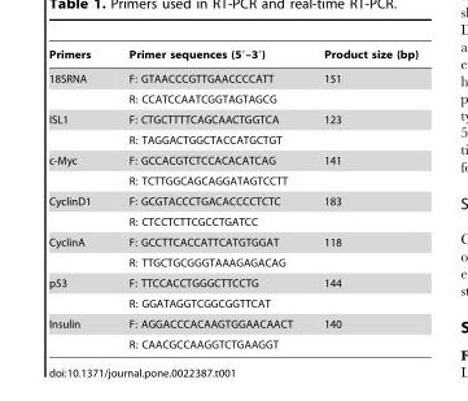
<table><thead><tr><td>Primers</td><td>Primer sequences (5′–3′)</td><td>Product size (bp)</td></tr></thead><tbody><tr><td rowspan="2">18SRNA</td><td>F: GTAACCCGTTGAACCCCATT</td><td>151</td></tr><tr><td>R: CCATCCAATCGGTAGTAGCG</td><td></td></tr><tr><td rowspan="2">ISL1</td><td>F: CTGCTTTTCAGCAACTGGTCA</td><td>123</td></tr><tr><td>R: TAGGACTGGCTACCATGCTGT</td><td></td></tr><tr><td rowspan="2">c-Myc</td><td>F: GCCACGTCTCCACACATCAG</td><td>141</td></tr><tr><td>R: TCTTGGCAGCAGGATAGTCCTT</td><td></td></tr><tr><td rowspan="2">CyclinD1</td><td>F: GCGTACCCTGACACCCCTCTC</td><td>183</td></tr><tr><td>R: CTCCTCTTCGCCTGATCC</td><td></td></tr><tr><td rowspan="2">CyclinA</td><td>F: GCCTTCACCATTCATGTGGAT</td><td>118</td></tr><tr><td>R: TTGCTGCGGGTAAAGAGACAG</td><td></td></tr><tr><td rowspan="2">p53</td><td>F: TTCCACCTGGGCTTCCTG</td><td>144</td></tr><tr><td>R: GGATAGGTCGGCGGTTCAT</td><td></td></tr><tr><td rowspan="2">Insulin</td><td>F: AGGACCCACAAGTGGAACAACT</td><td>140</td></tr><tr><td>R: CAACGCCAAGGTCTGAAGGT</td><td></td></tr></tbody></table>